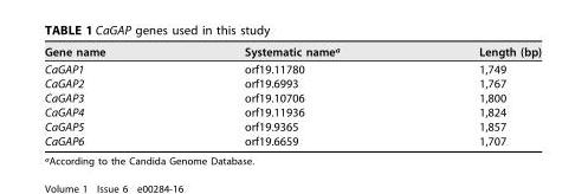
<table><thead><tr><td>Gene name</td><td>Systematic name<sup>a</sup></td><td>Length (bp)</td></tr></thead><tbody><tr><td>CaGAP1</td><td>orf19.11780</td><td>1,749</td></tr><tr><td>CaGAP2</td><td>orf19.6993</td><td>1,767</td></tr><tr><td>CaGAP3</td><td>orf19.10706</td><td>1,800</td></tr><tr><td>CaGAP4</td><td>orf19.11936</td><td>1,824</td></tr><tr><td>CaGAP5</td><td>orf19.9365</td><td>1,857</td></tr><tr><td>CaGAP6</td><td>orf19.6659</td><td>1,707</td></tr></tbody></table>